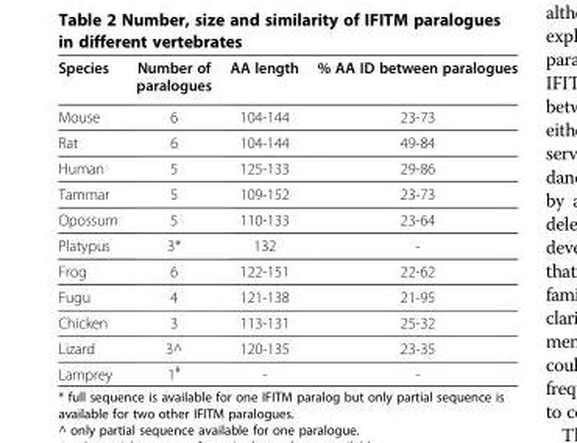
<table><thead><tr><td>Species</td><td>Number of paralogues</td><td>AA length</td><td>% AA ID between paralogues</td></tr></thead><tbody><tr><td>Mouse</td><td>6</td><td>104-144</td><td>23-73</td></tr><tr><td>Rat</td><td>6</td><td>104-144</td><td>49-84</td></tr><tr><td>Human</td><td>5</td><td>125-133</td><td>29-86</td></tr><tr><td>Tammar</td><td>5</td><td>109-152</td><td>23-73</td></tr><tr><td>Opossum</td><td>5</td><td>110-133</td><td>23-64</td></tr><tr><td>Platypus</td><td>3*</td><td>132</td><td>-</td></tr><tr><td>Frog</td><td>6</td><td>122-151</td><td>22-62</td></tr><tr><td>Fugu</td><td>4</td><td>121-138</td><td>21-95</td></tr><tr><td>Chicken</td><td>3</td><td>113-131</td><td>25-32</td></tr><tr><td>Lizard</td><td>3^</td><td>120-135</td><td>23-35</td></tr><tr><td>Lamprey</td><td>1<sup>#</sup></td><td>-</td><td>-</td></tr></tbody></table>